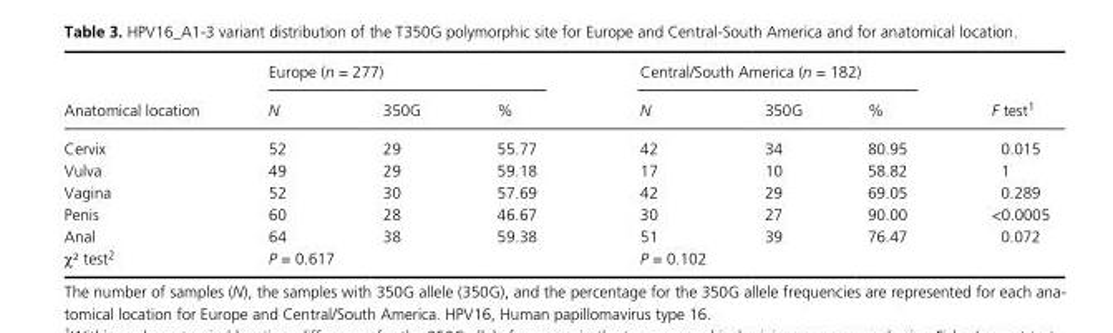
<table><thead><tr><td rowspan="2">Anatomical location</td><td colspan="3">Europe (n = 277)</td><td colspan="3">Central/South America (n = 182)</td><td rowspan="2">F test1</td></tr><tr><td>N</td><td>350G</td><td>%</td><td>N</td><td>350G</td><td>%</td></tr></thead><tbody><tr><td>Cervix</td><td>52</td><td>29</td><td>55.77</td><td>42</td><td>34</td><td>80.95</td><td>0.015</td></tr><tr><td>Vulva</td><td>49</td><td>29</td><td>59.18</td><td>17</td><td>10</td><td>58.82</td><td>1</td></tr><tr><td>Vagina</td><td>52</td><td>30</td><td>57.69</td><td>42</td><td>29</td><td>69.05</td><td>0.289</td></tr><tr><td>Penis</td><td>60</td><td>28</td><td>46.67</td><td>30</td><td>27</td><td>90.00</td><td>&lt;0.0005</td></tr><tr><td>Anal</td><td>64</td><td>38</td><td>59.38</td><td>51</td><td>39</td><td>76.47</td><td>0.072</td></tr><tr><td>χ² test2</td><td colspan="2">P = 0.617</td><td></td><td colspan="2">P = 0.102</td><td></td><td></td></tr></tbody></table>